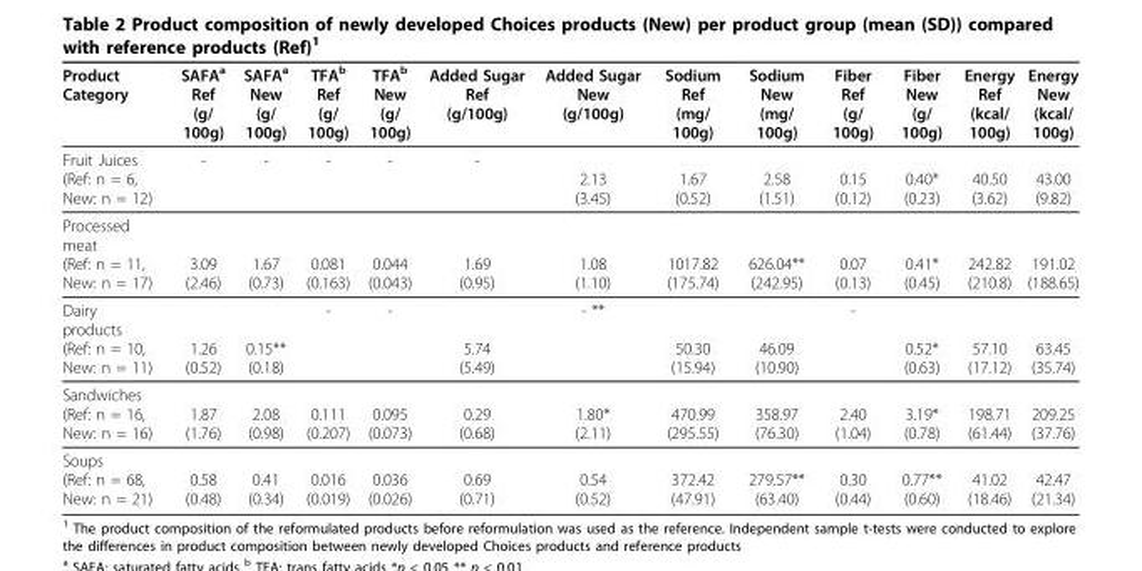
<table><thead><tr><td>Product Category</td><td>SAFA<sup>a</sup> Ref (g/ 100g)</td><td>SAFA<sup>a</sup> New (g/ 100g)</td><td>TFA<sup>b</sup> Ref (g/ 100g)</td><td>TFA<sup>b</sup> New (g/ 100g)</td><td>Added Sugar Ref (g/100g)</td><td>Added Sugar New (g/100g)</td><td>Sodium Ref (mg/ 100g)</td><td>Sodium New (mg/ 100g)</td><td>Fiber Ref (g/ 100g)</td><td>Fiber New (g/ 100g)</td><td>Energy Ref (kcal/ 100g)</td><td>Energy New (kcal/ 100g)</td></tr></thead><tbody><tr><td>Fruit Juices (Ref: n = 6, New: n = 12)</td><td>-</td><td>-</td><td>-</td><td>-</td><td>-</td><td>2.13 (3.45)</td><td>1.67 (0.52)</td><td>2.58 (1.51)</td><td>0.15 (0.12)</td><td>0.40* (0.23)</td><td>40.50 (3.62)</td><td>43.00 (9.82)</td></tr><tr><td>Processed meat (Ref: n = 11, New: n = 17)</td><td>3.09 (2.46)</td><td>1.67 (0.73)</td><td>0.081 (0.163)</td><td>0.044 (0.043)</td><td>1.69 (0.95)</td><td>1.08 (1.10)</td><td>1017.82 (175.74)</td><td>626.04** (242.95)</td><td>0.07 (0.13)</td><td>0.41* (0.45)</td><td>242.82 (210.8)</td><td>191.02 (188.65)</td></tr><tr><td>Dairy products (Ref: n = 10, New: n = 11)</td><td>1.26 (0.52)</td><td>0.15** (0.18)</td><td>-</td><td>-</td><td>5.74 (5.49)</td><td>- **</td><td>50.30 (15.94)</td><td>46.09 (10.90)</td><td>-</td><td>0.52* (0.63)</td><td>57.10 (17.12)</td><td>63.45 (35.74)</td></tr><tr><td>Sandwiches (Ref: n = 16, New: n = 16)</td><td>1.87 (1.76)</td><td>2.08 (0.98)</td><td>0.111 (0.207)</td><td>0.095 (0.073)</td><td>0.29 (0.68)</td><td>1.80* (2.11)</td><td>470.99 (295.55)</td><td>358.97 (76.30)</td><td>2.40 (1.04)</td><td>3.19* (0.78)</td><td>198.71 (61.44)</td><td>209.25 (37.76)</td></tr><tr><td>Soups (Ref: n = 68, New: n = 21)</td><td>0.58 (0.48)</td><td>0.41 (0.34)</td><td>0.016 (0.019)</td><td>0.036 (0.026)</td><td>0.69 (0.71)</td><td>0.54 (0.52)</td><td>372.42 (47.91)</td><td>279.57** (63.40)</td><td>0.30 (0.44)</td><td>0.77** (0.60)</td><td>41.02 (18.46)</td><td>42.47 (21.34)</td></tr></tbody></table>